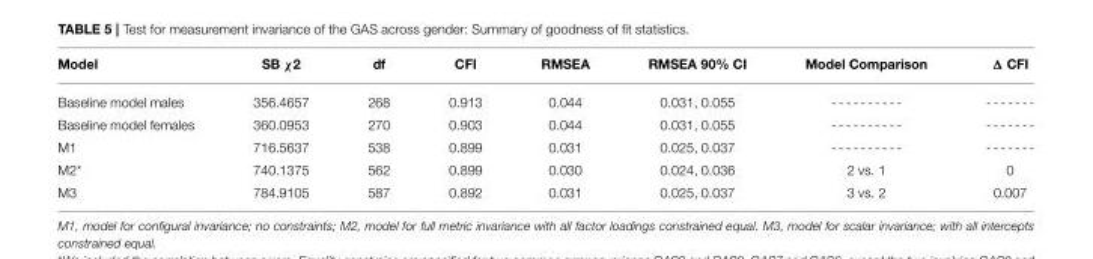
<table><thead><tr><td>Model</td><td>SB χ2</td><td>df</td><td>CFI</td><td>RMSEA</td><td>RMSEA 90% CI</td><td>Model Comparison</td><td>Δ CFI</td></tr></thead><tbody><tr><td>Baseline model males</td><td>356.4657</td><td>268</td><td>0.913</td><td>0.044</td><td>0.031, 0.055</td><td>- - - - - - - - - -</td><td>- - - - - - -</td></tr><tr><td>Baseline model females</td><td>360.0953</td><td>270</td><td>0.903</td><td>0.044</td><td>0.031, 0.055</td><td>- - - - - - - - - -</td><td>- - - - - - -</td></tr><tr><td>M1</td><td>716.5637</td><td>538</td><td>0.899</td><td>0.031</td><td>0.025, 0.037</td><td>- - - - - - - - - -</td><td>- - - - - - -</td></tr><tr><td>M2*</td><td>740.1375</td><td>562</td><td>0.899</td><td>0.030</td><td>0.024, 0.036</td><td>2 vs. 1</td><td>0</td></tr><tr><td>M3</td><td>784.9105</td><td>587</td><td>0.892</td><td>0.031</td><td>0.025, 0.037</td><td>3 vs. 2</td><td>0.007</td></tr></tbody></table>